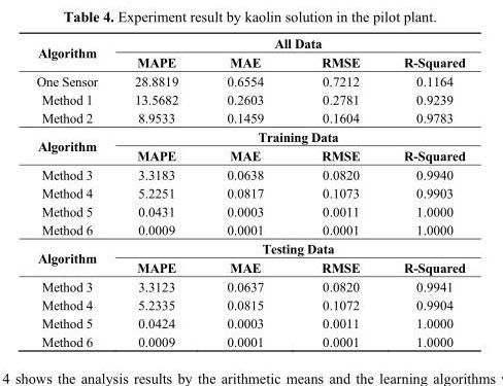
<table><tbody><tr><td rowspan="2">Algorithm</td><td colspan="4">All Data</td></tr><tr><td>MAPE</td><td>MAE</td><td>RMSE</td><td>R-Squared</td></tr><tr><td>One Sensor</td><td>28.8819</td><td>0.6554</td><td>0.7212</td><td>0.1164</td></tr><tr><td>Method 1</td><td>13.5682</td><td>0.2603</td><td>0.2781</td><td>0.9239</td></tr><tr><td>Method 2</td><td>8.9533</td><td>0.1459</td><td>0.1604</td><td>0.9783</td></tr><tr><td rowspan="2">Algorithm</td><td colspan="4">Training Data</td></tr><tr><td>MAPE</td><td>MAE</td><td>RMSE</td><td>R-Squared</td></tr><tr><td>Method 3</td><td>3.3183</td><td>0.0638</td><td>0.0820</td><td>0.9940</td></tr><tr><td>Method 4</td><td>5.2251</td><td>0.0817</td><td>0.1073</td><td>0.9903</td></tr><tr><td>Method 5</td><td>0.0431</td><td>0.0003</td><td>0.0011</td><td>1.0000</td></tr><tr><td>Method 6</td><td>0.0009</td><td>0.0001</td><td>0.0001</td><td>1.0000</td></tr><tr><td rowspan="2">Algorithm</td><td colspan="4">Testing Data</td></tr><tr><td>MAPE</td><td>MAE</td><td>RMSE</td><td>R-Squared</td></tr><tr><td>Method 3</td><td>3.3123</td><td>0.0637</td><td>0.0820</td><td>0.9941</td></tr><tr><td>Method 4</td><td>5.2335</td><td>0.0815</td><td>0.1072</td><td>0.9904</td></tr><tr><td>Method 5</td><td>0.0424</td><td>0.0003</td><td>0.0011</td><td>1.0000</td></tr><tr><td>Method 6</td><td>0.0009</td><td>0.0001</td><td>0.0001</td><td>1.0000</td></tr></tbody></table>